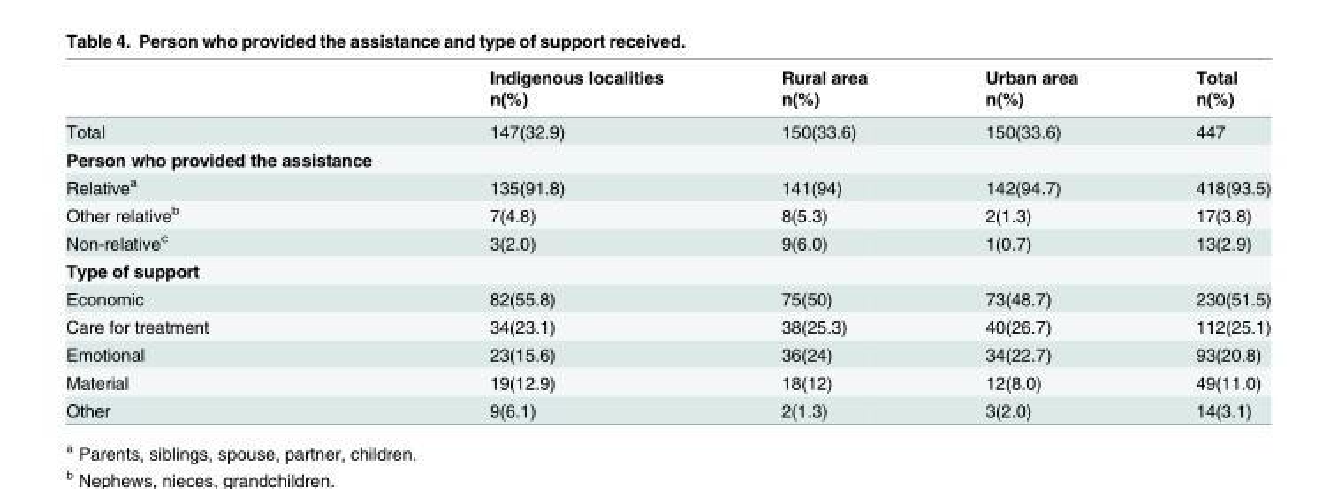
<table><thead><tr><td rowspan="2"></td><td rowspan="2">Indigenous localities n(%)</td><td rowspan="2">Rural area n(%)</td><td rowspan="2">Urban area n(%)</td><td rowspan="2">Total n(%)</td></tr><tr></tr></thead><tbody><tr><td>Total</td><td>147(32.9)</td><td>150(33.6)</td><td>150(33.6)</td><td>447</td></tr><tr><td colspan="5">Person who provided the assistance</td></tr><tr><td>Relative<sup>a</sup></td><td>135(91.8)</td><td>141(94)</td><td>142(94.7)</td><td>418(93.5)</td></tr><tr><td>Other relative<sup>b</sup></td><td>7(4.8)</td><td>8(5.3)</td><td>2(1.3)</td><td>17(3.8)</td></tr><tr><td>Non-relative<sup>c</sup></td><td>3(2.0)</td><td>9(6.0)</td><td>1(0.7)</td><td>13(2.9)</td></tr><tr><td colspan="5">Type of support</td></tr><tr><td>Economic</td><td>82(55.8)</td><td>75(50)</td><td>73(48.7)</td><td>230(51.5)</td></tr><tr><td>Care for treatment</td><td>34(23.1)</td><td>38(25.3)</td><td>40(26.7)</td><td>112(25.1)</td></tr><tr><td>Emotional</td><td>23(15.6)</td><td>36(24)</td><td>34(22.7)</td><td>93(20.8)</td></tr><tr><td>Material</td><td>19(12.9)</td><td>18(12)</td><td>12(8.0)</td><td>49(11.0)</td></tr><tr><td>Other</td><td>9(6.1)</td><td>2(1.3)</td><td>3(2.0)</td><td>14(3.1)</td></tr></tbody></table>